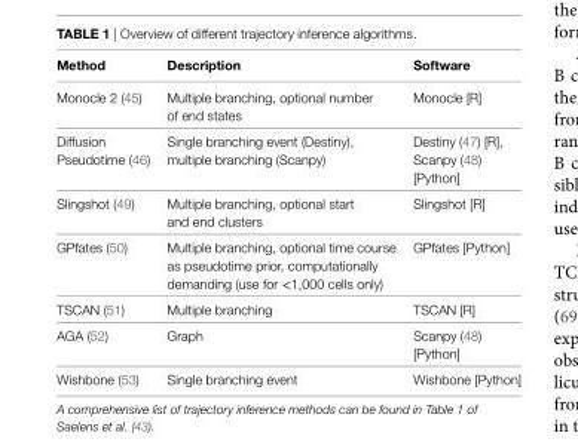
<table><thead><tr><td>Method</td><td>Description</td><td>Software</td></tr></thead><tbody><tr><td>Monocle 2 (45)</td><td>Multiple branching, optional number of end states</td><td>Monocle [R]</td></tr><tr><td>Diffusion Pseudotime (46)</td><td>Single branching event (Destiny), multiple branching (Scanpy)</td><td>Destiny (47) [R], Scanpy (48) [Python]</td></tr><tr><td>Slingshot (49)</td><td>Multiple branching, optional start and end clusters</td><td>Slingshot [R]</td></tr><tr><td>GPfates (50)</td><td>Multiple branching, optional time course as pseudotime prior, computationally demanding (use for &lt;1,000 cells only)</td><td>GPfates [Python]</td></tr><tr><td>TSCAN (51)</td><td>Multiple branching</td><td>TSCAN [R]</td></tr><tr><td>AGA (52)</td><td>Graph</td><td>Scanpy (48) [Python]</td></tr><tr><td>Wishbone (53)</td><td>Single branching event</td><td>Wishbone [Python]</td></tr></tbody></table>